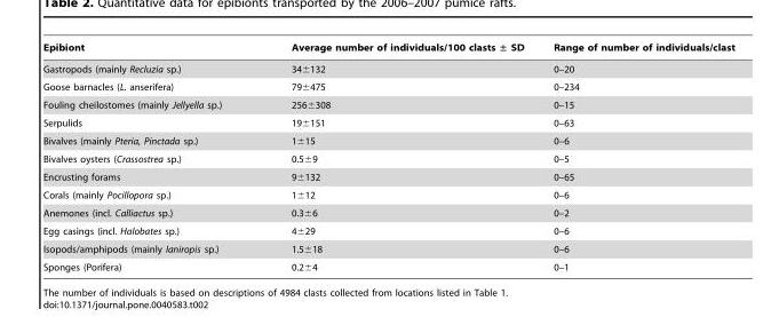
<table><thead><tr><td>Epibiont</td><td>Average number of individuals/100 clasts ± SD</td><td>Range of number of individuals/clast</td></tr></thead><tbody><tr><td>Gastropods (mainly Recluzia sp.)</td><td>34±132</td><td>0–20</td></tr><tr><td>Goose barnacles (L. anserifera)</td><td>79±475</td><td>0–234</td></tr><tr><td>Fouling cheilostomes (mainly Jellyella sp.)</td><td>256±308</td><td>0–15</td></tr><tr><td>Serpulids</td><td>19±151</td><td>0–63</td></tr><tr><td>Bivalves (mainly Pteria, Pinctada sp.)</td><td>1±15</td><td>0–6</td></tr><tr><td>Bivalves oysters (Crassostrea sp.)</td><td>0.5±9</td><td>0–5</td></tr><tr><td>Encrusting forams</td><td>9±132</td><td>0–65</td></tr><tr><td>Corals (mainly Pocillopora sp.)</td><td>1±12</td><td>0–6</td></tr><tr><td>Anemones (incl. Calliactus sp.)</td><td>0.3±6</td><td>0–2</td></tr><tr><td>Egg casings (incl. Halobates sp.)</td><td>4±29</td><td>0–6</td></tr><tr><td>Isopods/amphipods (mainly Ianiropis sp.)</td><td>1.5±18</td><td>0–6</td></tr><tr><td>Sponges (Porifera)</td><td>0.2±4</td><td>0–1</td></tr></tbody></table>